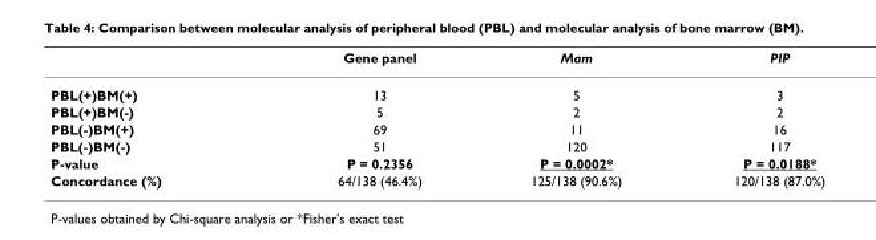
<table><thead><tr><td></td><td>Gene panel</td><td>Mam</td><td>PIP</td></tr></thead><tbody><tr><td>PBL(+)BM(+)</td><td>13</td><td>5</td><td>3</td></tr><tr><td>PBL(+)BM(-)</td><td>5</td><td>2</td><td>2</td></tr><tr><td>PBL(-)BM(+)</td><td>69</td><td>11</td><td>16</td></tr><tr><td>PBL(-)BM(-)</td><td>51</td><td>120</td><td>117</td></tr><tr><td>P-value</td><td>P = 0.2356</td><td>P = 0.0002*</td><td>P = 0.0188*</td></tr><tr><td>Concordance (%)</td><td>64/138 (46.4%)</td><td>125/138 (90.6%)</td><td>120/138 (87.0%)</td></tr></tbody></table>